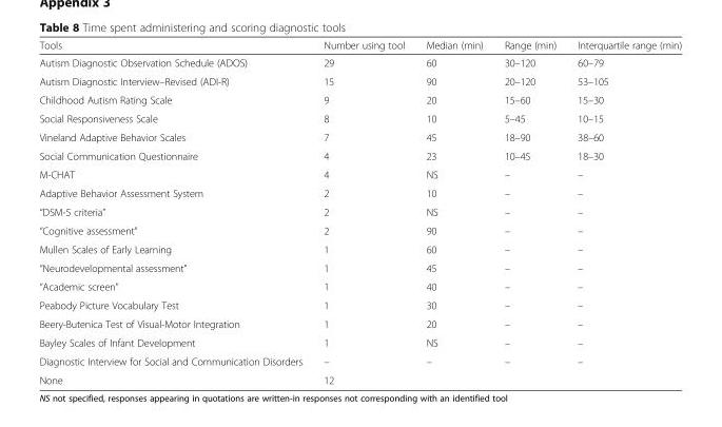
<table><thead><tr><td>Tools</td><td>Number using tool</td><td>Median (min)</td><td>Range (min)</td><td>Interquartile range (min)</td></tr></thead><tbody><tr><td>Autism Diagnostic Observation Schedule (ADOS)</td><td>29</td><td>60</td><td>30–120</td><td>60–79</td></tr><tr><td>Autism Diagnostic Interview–Revised (ADI-R)</td><td>15</td><td>90</td><td>20–120</td><td>53–105</td></tr><tr><td>Childhood Autism Rating Scale</td><td>9</td><td>20</td><td>15–60</td><td>15–30</td></tr><tr><td>Social Responsiveness Scale</td><td>8</td><td>10</td><td>5–45</td><td>10–15</td></tr><tr><td>Vineland Adaptive Behavior Scales</td><td>7</td><td>45</td><td>18–90</td><td>38–60</td></tr><tr><td>Social Communication Questionnaire</td><td>4</td><td>23</td><td>10–45</td><td>18–30</td></tr><tr><td>M-CHAT</td><td>4</td><td>NS</td><td>–</td><td>–</td></tr><tr><td>Adaptive Behavior Assessment System</td><td>2</td><td>10</td><td>–</td><td>–</td></tr><tr><td>“DSM-5 criteria”</td><td>2</td><td>NS</td><td>–</td><td>–</td></tr><tr><td>“Cognitive assessment”</td><td>2</td><td>90</td><td>–</td><td>–</td></tr><tr><td>Mullen Scales of Early Learning</td><td>1</td><td>60</td><td>–</td><td>–</td></tr><tr><td>“Neurodevelopmental assessment”</td><td>1</td><td>45</td><td>–</td><td>–</td></tr><tr><td>“Academic screen”</td><td>1</td><td>40</td><td>–</td><td>–</td></tr><tr><td>Peabody Picture Vocabulary Test</td><td>1</td><td>30</td><td>–</td><td>–</td></tr><tr><td>Beery-Butenica Test of Visual-Motor Integration</td><td>1</td><td>20</td><td>–</td><td>–</td></tr><tr><td>Bayley Scales of Infant Development</td><td>1</td><td>NS</td><td>–</td><td>–</td></tr><tr><td>Diagnostic Interview for Social and Communication Disorders</td><td>–</td><td>–</td><td>–</td><td>–</td></tr><tr><td>None</td><td>12</td><td></td><td></td><td></td></tr></tbody></table>